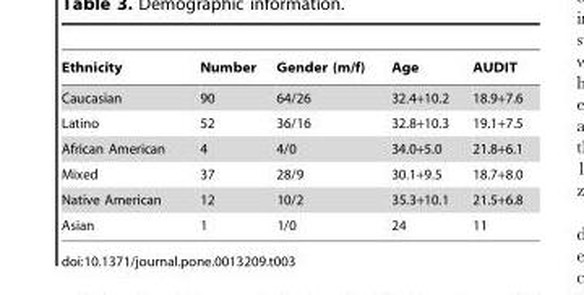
<table><thead><tr><td>Ethnicity</td><td>Number</td><td>Gender (m/f)</td><td>Age</td><td>AUDIT</td></tr></thead><tbody><tr><td>Caucasian</td><td>90</td><td>64/26</td><td>32.4+10.2</td><td>18.9+7.6</td></tr><tr><td>Latino</td><td>52</td><td>36/16</td><td>32.8+10.3</td><td>19.1+7.5</td></tr><tr><td>African American</td><td>4</td><td>4/0</td><td>34.0+5.0</td><td>21.8+6.1</td></tr><tr><td>Mixed</td><td>37</td><td>28/9</td><td>30.1+9.5</td><td>18.7+8.0</td></tr><tr><td>Native American</td><td>12</td><td>10/2</td><td>35.3+10.1</td><td>21.5+6.8</td></tr><tr><td>Asian</td><td>1</td><td>1/0</td><td>24</td><td>11</td></tr></tbody></table>